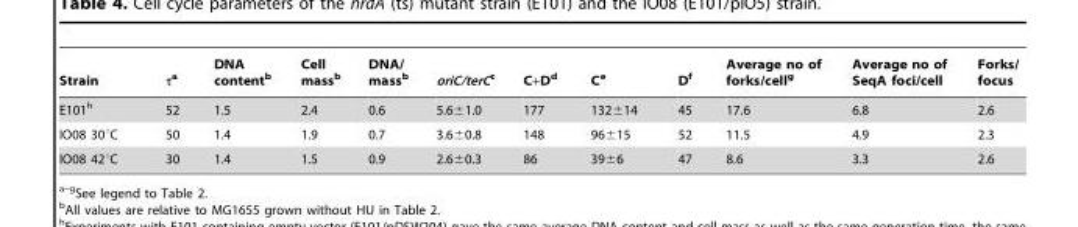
<table><thead><tr><td>Strain</td><td>τ<sup>a</sup></td><td>DNA content<sup>b</sup></td><td>Cell mass<sup>b</sup></td><td>DNA/ mass<sup>b</sup></td><td>oriC/terC<sup>c</sup></td><td>C+D<sup>d</sup></td><td>C<sup>e</sup></td><td>D<sup>f</sup></td><td>Average no of forks/cell<sup>g</sup></td><td>Average no of SeqA foci/cell</td><td>Forks/ focus</td></tr></thead><tbody><tr><td>E101<sup>h</sup></td><td>52</td><td>1.5</td><td>2.4</td><td>0.6</td><td>5.6±1.0</td><td>177</td><td>132±14</td><td>45</td><td>17.6</td><td>6.8</td><td>2.6</td></tr><tr><td>IO08 30°C</td><td>50</td><td>1.4</td><td>1.9</td><td>0.7</td><td>3.6±0.8</td><td>148</td><td>96±15</td><td>52</td><td>11.5</td><td>4.9</td><td>2.3</td></tr><tr><td>IO08 42°C</td><td>30</td><td>1.4</td><td>1.5</td><td>0.9</td><td>2.6±0.3</td><td>86</td><td>39±6</td><td>47</td><td>8.6</td><td>3.3</td><td>2.6</td></tr></tbody></table>